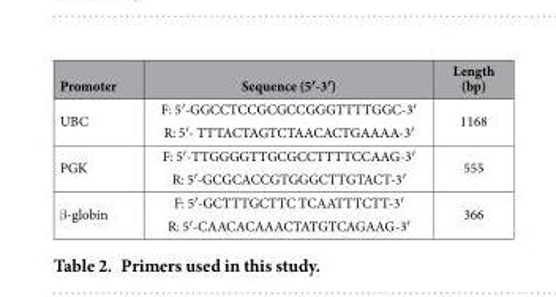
<table><thead><tr><td>Promoter</td><td>Sequence (5′-3′)</td><td>Length (bp)</td></tr></thead><tbody><tr><td>UBC</td><td>F: 5′ -GGCCTCCGCGCCGGGTTTTGGC-3′ R: 5′ - TTTACTAGTCTAACACTGAAAA-3′</td><td>1168</td></tr><tr><td>PGK</td><td>F: 5′ -TTGGGGTTGCGCCTTTTCCAAG-3′ R: 5′ -GCGCACCGTGGGCTTGTACT-3′</td><td>555</td></tr><tr><td>β -globin</td><td>F: 5′ -GCTTTGCTTC TCAATTTCTT-3′ R: 5′ -CAACACAAACTATGTCAGAAG-3′</td><td>366</td></tr></tbody></table>